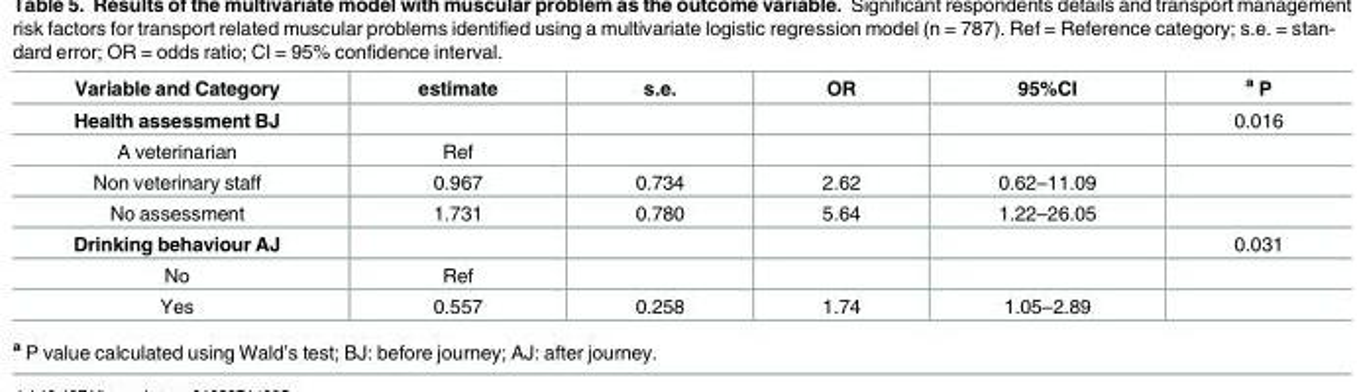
<table><thead><tr><td>Variable and Category</td><td>estimate</td><td>s.e.</td><td>OR</td><td>95%CI</td><td><sup>a</sup> P</td></tr></thead><tbody><tr><td>Health assessment BJ</td><td></td><td></td><td></td><td></td><td>0.016</td></tr><tr><td>A veterinarian</td><td>Ref</td><td></td><td></td><td></td><td></td></tr><tr><td>Non veterinary staff</td><td>0.967</td><td>0.734</td><td>2.62</td><td>0.62–11.09</td><td></td></tr><tr><td>No assessment</td><td>1.731</td><td>0.780</td><td>5.64</td><td>1.22–26.05</td><td></td></tr><tr><td>Drinking behaviour AJ</td><td></td><td></td><td></td><td></td><td>0.031</td></tr><tr><td>No</td><td>Ref</td><td></td><td></td><td></td><td></td></tr><tr><td>Yes</td><td>0.557</td><td>0.258</td><td>1.74</td><td>1.05–2.89</td><td></td></tr></tbody></table>